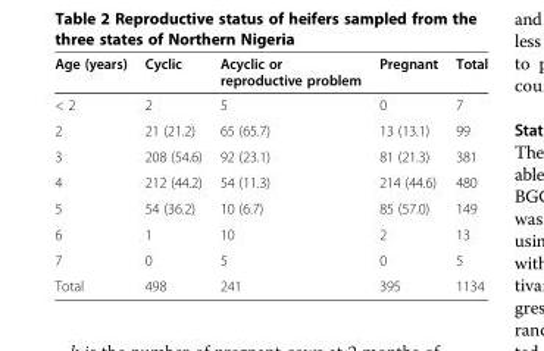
<table><thead><tr><td>Age (years)</td><td>Cyclic</td><td>Acyclic or reproductive problem</td><td>Pregnant</td><td>Total</td></tr></thead><tbody><tr><td>&lt; 2</td><td>2</td><td>5</td><td>0</td><td>7</td></tr><tr><td>2</td><td>21 (21.2)</td><td>65 (65.7)</td><td>13 (13.1)</td><td>99</td></tr><tr><td>3</td><td>208 (54.6)</td><td>92 (23.1)</td><td>81 (21.3)</td><td>381</td></tr><tr><td>4</td><td>212 (44.2)</td><td>54 (11.3)</td><td>214 (44.6)</td><td>480</td></tr><tr><td>5</td><td>54 (36.2)</td><td>10 (6.7)</td><td>85 (57.0)</td><td>149</td></tr><tr><td>6</td><td>1</td><td>10</td><td>2</td><td>13</td></tr><tr><td>7</td><td>0</td><td>5</td><td>0</td><td>5</td></tr><tr><td>Total</td><td>498</td><td>241</td><td>395</td><td>1134</td></tr></tbody></table>